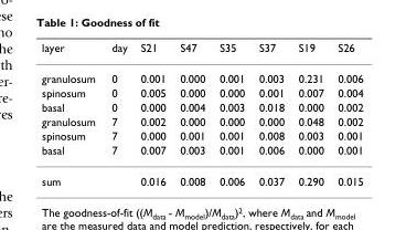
<table><thead><tr><td>layer</td><td>day</td><td>S21</td><td>S47</td><td>S35</td><td>S37</td><td>S19</td><td>S26</td></tr></thead><tbody><tr><td>granulosum</td><td>0</td><td>0.001</td><td>0.000</td><td>0.001</td><td>0.003</td><td>0.231</td><td>0.006</td></tr><tr><td>spinosum</td><td>0</td><td>0.005</td><td>0.000</td><td>0.000</td><td>0.001</td><td>0.007</td><td>0.004</td></tr><tr><td>basal</td><td>0</td><td>0.000</td><td>0.004</td><td>0.003</td><td>0.018</td><td>0.000</td><td>0.002</td></tr><tr><td>granulosum</td><td>7</td><td>0.002</td><td>0.000</td><td>0.000</td><td>0.000</td><td>0.048</td><td>0.002</td></tr><tr><td>spinosum</td><td>7</td><td>0.000</td><td>0.001</td><td>0.001</td><td>0.008</td><td>0.003</td><td>0.001</td></tr><tr><td>basal</td><td>7</td><td>0.007</td><td>0.003</td><td>0.001</td><td>0.006</td><td>0.000</td><td>0.001</td></tr><tr><td>sum</td><td></td><td>0.016</td><td>0.008</td><td>0.006</td><td>0.037</td><td>0.290</td><td>0.015</td></tr></tbody></table>